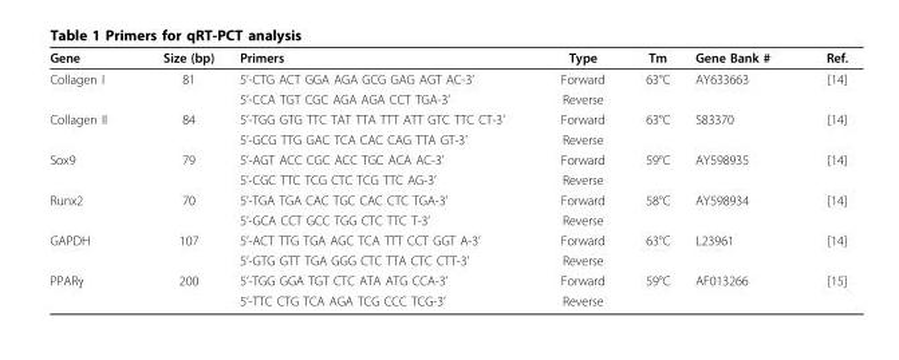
<table><thead><tr><td>Gene</td><td>Size (bp)</td><td>Primers</td><td>Type</td><td>Tm</td><td>Gene Bank #</td><td>Ref.</td></tr></thead><tbody><tr><td rowspan="2">Collagen I</td><td>81</td><td>5’-CTG ACT GGA AGA GCG GAG AGT AC-3’</td><td>Forward</td><td>63°C</td><td>AY633663</td><td>[14]</td></tr><tr><td></td><td>5’-CCA TGT CGC AGA AGA CCT TGA-3’</td><td>Reverse</td><td></td><td></td><td></td></tr><tr><td rowspan="2">Collagen II</td><td>84</td><td>5’-TGG GTG TTC TAT TTA TTT ATT GTC TTC CT-3’</td><td>Forward</td><td>63°C</td><td>S83370</td><td>[14]</td></tr><tr><td></td><td>5’-GCG TTG GAC TCA CAC CAG TTA GT-3’</td><td>Reverse</td><td></td><td></td><td></td></tr><tr><td rowspan="2">Sox9</td><td>79</td><td>5’-AGT ACC CGC ACC TGC ACA AC-3’</td><td>Forward</td><td>59°C</td><td>AY598935</td><td>[14]</td></tr><tr><td></td><td>5’-CGC TTC TCG CTC TCG TTC AG-3’</td><td>Reverse</td><td></td><td></td><td></td></tr><tr><td rowspan="2">Runx2</td><td>70</td><td>5’-TGA TGA CAC TGC CAC CTC TGA-3’</td><td>Forward</td><td>58°C</td><td>AY598934</td><td>[14]</td></tr><tr><td></td><td>5’-GCA CCT GCC TGG CTC TTC T-3’</td><td>Reverse</td><td></td><td></td><td></td></tr><tr><td rowspan="2">GAPDH</td><td>107</td><td>5’-ACT TTG TGA AGC TCA TTT CCT GGT A-3’</td><td>Forward</td><td>63°C</td><td>L23961</td><td>[14]</td></tr><tr><td></td><td>5’-GTG GTT TGA GGG CTC TTA CTC CTT-3’</td><td>Reverse</td><td></td><td></td><td></td></tr><tr><td rowspan="2">PPARγ</td><td>200</td><td>5’-TGG GGA TGT CTC ATA ATG CCA-3’</td><td>Forward</td><td>59°C</td><td>AF013266</td><td>[15]</td></tr><tr><td></td><td>5’-TTC CTG TCA AGA TCG CCC TCG-3’</td><td>Reverse</td><td></td><td></td><td></td></tr></tbody></table>